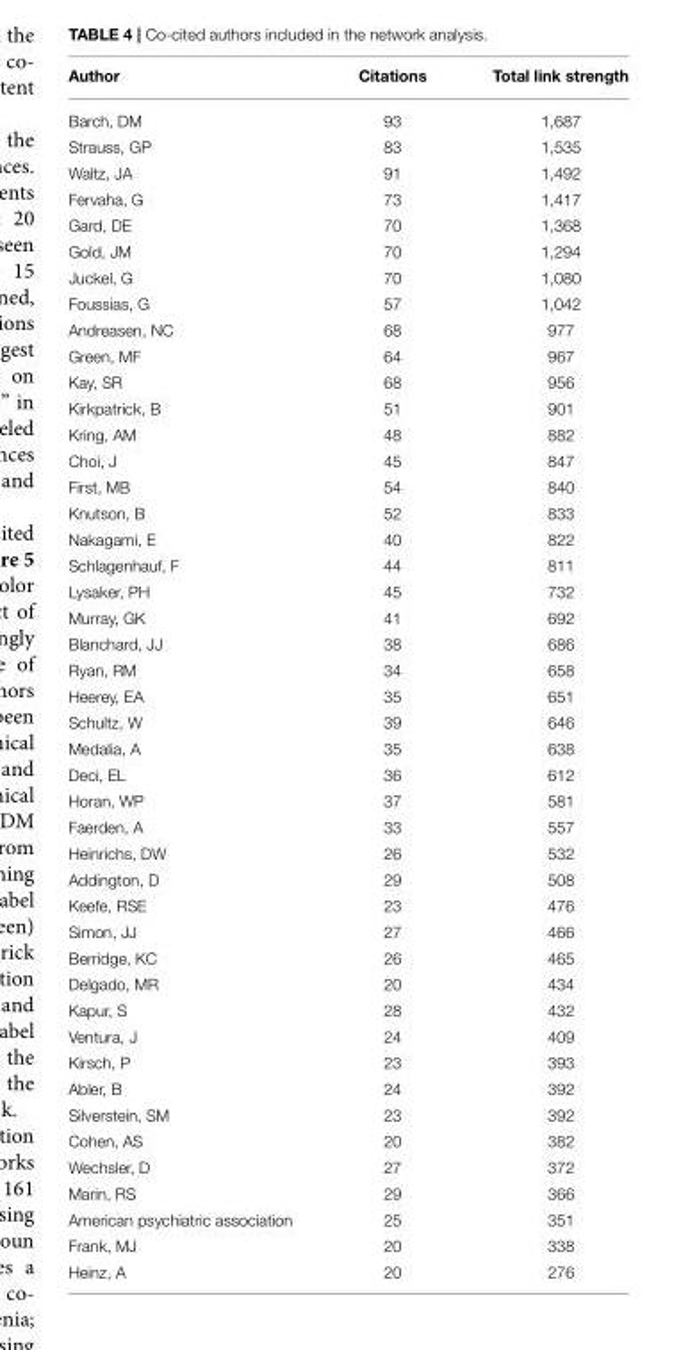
<table><thead><tr><td>Author</td><td>Citations</td><td>Total link strength</td></tr></thead><tbody><tr><td>Barch, DM</td><td>93</td><td>1,687</td></tr><tr><td>Strauss, GP</td><td>83</td><td>1,535</td></tr><tr><td>Waltz, JA</td><td>91</td><td>1,492</td></tr><tr><td>Fervaha, G</td><td>73</td><td>1,417</td></tr><tr><td>Gard, DE</td><td>70</td><td>1,368</td></tr><tr><td>Gold, JM</td><td>70</td><td>1,294</td></tr><tr><td>Juckel, G</td><td>70</td><td>1,080</td></tr><tr><td>Foussias, G</td><td>57</td><td>1,042</td></tr><tr><td>Andreasen, NC</td><td>68</td><td>977</td></tr><tr><td>Green, MF</td><td>64</td><td>967</td></tr><tr><td>Kay, SR</td><td>68</td><td>956</td></tr><tr><td>Kirkpatrick, B</td><td>51</td><td>901</td></tr><tr><td>Kring, AM</td><td>48</td><td>882</td></tr><tr><td>Choi, J</td><td>45</td><td>847</td></tr><tr><td>First, MB</td><td>54</td><td>840</td></tr><tr><td>Knutson, B</td><td>52</td><td>833</td></tr><tr><td>Nakagami, E</td><td>40</td><td>822</td></tr><tr><td>Schlagenhauf, F</td><td>44</td><td>811</td></tr><tr><td>Lysaker, PH</td><td>45</td><td>732</td></tr><tr><td>Murray, GK</td><td>41</td><td>692</td></tr><tr><td>Blanchard, JJ</td><td>38</td><td>686</td></tr><tr><td>Ryan, RM</td><td>34</td><td>658</td></tr><tr><td>Heerey, EA</td><td>35</td><td>651</td></tr><tr><td>Schultz, W</td><td>39</td><td>646</td></tr><tr><td>Medalia, A</td><td>35</td><td>638</td></tr><tr><td>Deci, EL</td><td>36</td><td>612</td></tr><tr><td>Horan, WP</td><td>37</td><td>581</td></tr><tr><td>Faerden, A</td><td>33</td><td>557</td></tr><tr><td>Heinrichs, DW</td><td>26</td><td>532</td></tr><tr><td>Addington, D</td><td>29</td><td>508</td></tr><tr><td>Keefe, RSE</td><td>23</td><td>476</td></tr><tr><td>Simon, JJ</td><td>27</td><td>466</td></tr><tr><td>Berridge, KC</td><td>26</td><td>465</td></tr><tr><td>Delgado, MR</td><td>20</td><td>434</td></tr><tr><td>Kapur, S</td><td>28</td><td>432</td></tr><tr><td>Ventura, J</td><td>24</td><td>409</td></tr><tr><td>Kirsch, P</td><td>23</td><td>393</td></tr><tr><td>Abler, B</td><td>24</td><td>392</td></tr><tr><td>Silverstein, SM</td><td>23</td><td>392</td></tr><tr><td>Cohen, AS</td><td>20</td><td>382</td></tr><tr><td>Wechsler, D</td><td>27</td><td>372</td></tr><tr><td>Marin, RS</td><td>29</td><td>366</td></tr><tr><td>American psychiatric association</td><td>25</td><td>351</td></tr><tr><td>Frank, MJ</td><td>20</td><td>338</td></tr><tr><td>Heinz, A</td><td>20</td><td>276</td></tr></tbody></table>